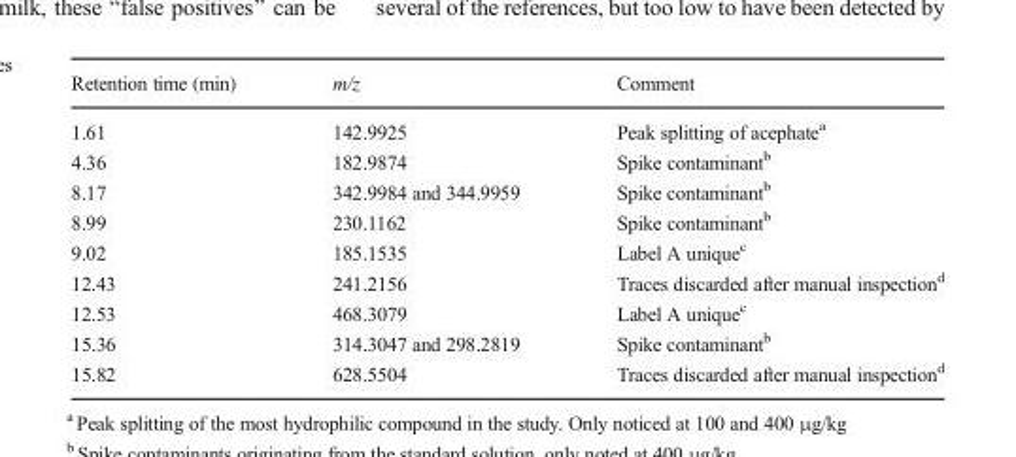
<table><thead><tr><td>Retention time (min)</td><td>m/z</td><td>Comment</td></tr></thead><tbody><tr><td>1.61</td><td>142.9925</td><td>Peak splitting of acephate<sup>a</sup></td></tr><tr><td>4.36</td><td>182.9874</td><td>Spike contaminant<sup>b</sup></td></tr><tr><td>8.17</td><td>342.9984 and 344.9959</td><td>Spike contaminant<sup>b</sup></td></tr><tr><td>8.99</td><td>230.1162</td><td>Spike contaminant<sup>b</sup></td></tr><tr><td>9.02</td><td>185.1535</td><td>Label A unique<sup>c</sup></td></tr><tr><td>12.43</td><td>241.2156</td><td>Traces discarded after manual inspection<sup>d</sup></td></tr><tr><td>12.53</td><td>468.3079</td><td>Label A unique<sup>c</sup></td></tr><tr><td>15.36</td><td>314.3047 and 298.2819</td><td>Spike contaminant<sup>b</sup></td></tr><tr><td>15.82</td><td>628.5504</td><td>Traces discarded after manual inspection<sup>d</sup></td></tr></tbody></table>